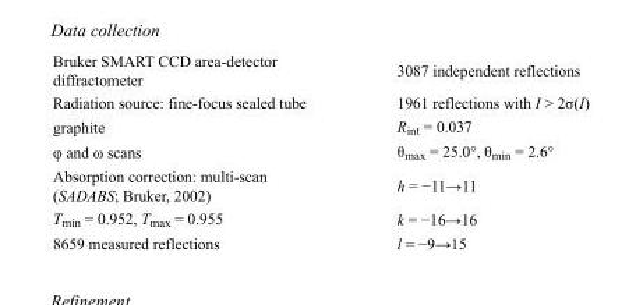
<table><tbody><tr><td>Bruker SMART CCD area-detector diffractometer</td><td>3087 independent reflections</td></tr><tr><td>Radiation source: fine-focus sealed tube</td><td>1961 reflections with I &gt; 2σ(I)</td></tr><tr><td>graphite</td><td>R<sub>int</sub> = 0.037</td></tr><tr><td>φ and ω scans</td><td>θ<sub>max</sub> = 25.0°, θ<sub>min</sub> = 2.6°</td></tr><tr><td>Absorption correction: multi-scan (SADABS; Bruker, 2002)</td><td>h = −11→11</td></tr><tr><td>T<sub>min</sub> = 0.952, T<sub>max</sub> = 0.955</td><td>k = −16→16</td></tr><tr><td>8659 measured reflections</td><td>l = −9→15</td></tr></tbody></table>